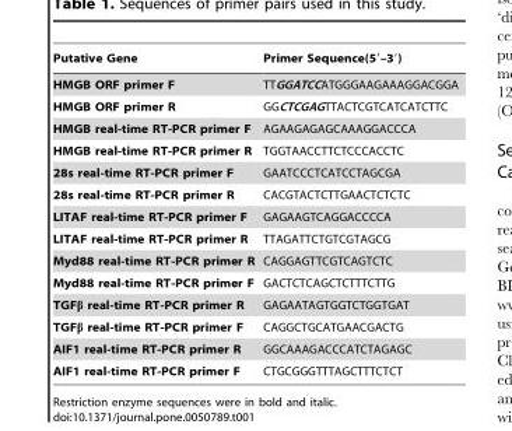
<table><thead><tr><td>Putative Gene</td><td>Primer Sequence(5′–3′)</td></tr></thead><tbody><tr><td>HMGB ORF primer F</td><td>TTGGATCCATGGGAAGAAAGGACGGA</td></tr><tr><td>HMGB ORF primer R</td><td>GGCTCGAGTTACTCGTCATCATCTTC</td></tr><tr><td>HMGB real-time RT-PCR primer F</td><td>AGAAGAGAGCAAAGGACCCA</td></tr><tr><td>HMGB real-time RT-PCR primer R</td><td>TGGTAACCTTCTCCCACCTC</td></tr><tr><td>28s real-time RT-PCR primer F</td><td>GAATCCCTCATCCTAGCGA</td></tr><tr><td>28s real-time RT-PCR primer R</td><td>CACGTACTCTTGAACTCTCTC</td></tr><tr><td>LITAF real-time RT-PCR primer F</td><td>GAGAAGTCAGGACCCCA</td></tr><tr><td>LITAF real-time RT-PCR primer R</td><td>TTAGATTCTGTCGTAGCG</td></tr><tr><td>Myd88 real-time RT-PCR primer R</td><td>CAGGAGTTCGTCAGTCTC</td></tr><tr><td>Myd88 real-time RT-PCR primer F</td><td>GACTCTCAGCTCTTTCTTG</td></tr><tr><td>TGFβ real-time RT-PCR primer R</td><td>GAGAATAGTGGTCTGGTGAT</td></tr><tr><td>TGFβ real-time RT-PCR primer F</td><td>CAGGCTGCATGAACGACTG</td></tr><tr><td>AIF1 real-time RT-PCR primer R</td><td>GGCAAAGACCCATCTAGAGC</td></tr><tr><td>AIF1 real-time RT-PCR primer F</td><td>CTGCGGGTTTAGCTTTCTCT</td></tr></tbody></table>